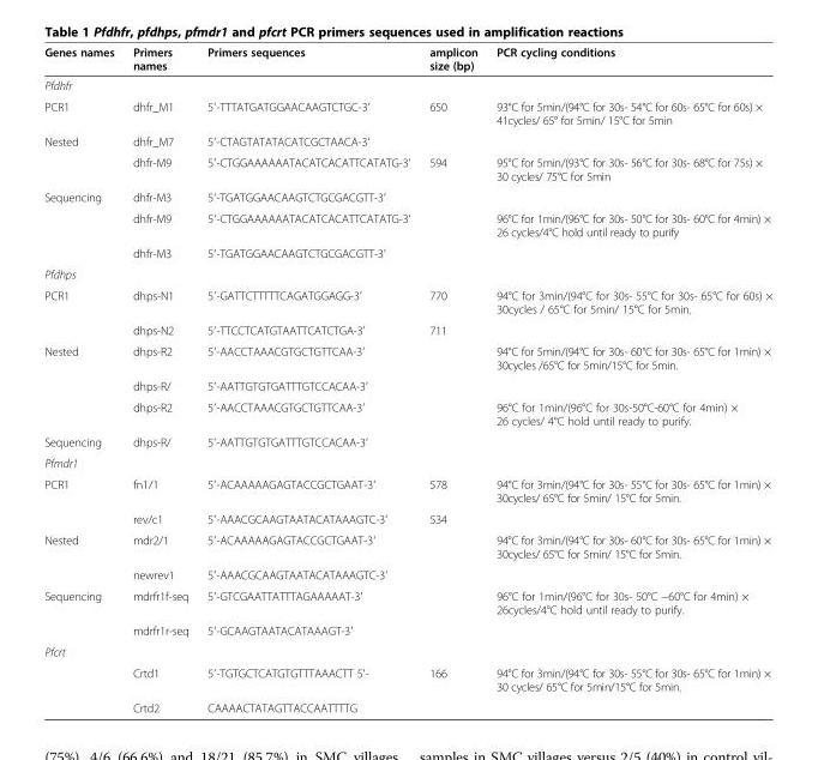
<table><thead><tr><td>Genes names</td><td>Primers names</td><td>Primers sequences</td><td>amplicon size (bp)</td><td>PCR cycling conditions</td></tr></thead><tbody><tr><td colspan="5">Pfdhfr</td></tr><tr><td>PCR1</td><td>dhfr_M1</td><td>5′-TTTATGATGGAACAAGTCTGC-3′</td><td>650</td><td>93°C for 5min/(94°C for 30s- 54°C for 60s- 65°C for 60s) × 41cycles/ 65° for 5min/ 15°C for 5min</td></tr><tr><td rowspan="2">Nested</td><td>dhfr_M7</td><td>5′-CTAGTATATACATCGCTAACA-3′</td><td></td><td></td></tr><tr><td>dhfr-M9</td><td>5′-CTGGAAAAAATACATCACATTCATATG-3′</td><td>594</td><td>95°C for 5min/(93°C for 30s- 56°C for 30s- 68°C for 75s) × 30 cycles/ 75°C for 5min</td></tr><tr><td rowspan="3">Sequencing</td><td>dhfr-M3</td><td>5′-TGATGGAACAAGTCTGCGACGTT-3′</td><td></td><td></td></tr><tr><td>dhfr-M9</td><td>5′-CTGGAAAAAATACATCACATTCATATG-3′</td><td></td><td>96°C for 1min/(96°C for 30s- 50°C for 30s- 60°C for 4min) × 26 cycles/4°C hold until ready to purify</td></tr><tr><td>dhfr-M3</td><td>5′-TGATGGAACAAGTCTGCGACGTT-3′</td><td></td><td></td></tr><tr><td colspan="5">Pfdhps</td></tr><tr><td rowspan="2">PCR1</td><td>dhps-N1</td><td>5′-GATTCTTTTTCAGATGGAGG-3′</td><td>770</td><td>94°C for 3min/(94°C for 30s- 55°C for 30s- 65°C for 60s) × 30cycles / 65°C for 5min/ 15°C for 5min.</td></tr><tr><td>dhps-N2</td><td>5′-TTCCTCATGTAATTCATCTGA-3′</td><td>711</td><td></td></tr><tr><td rowspan="3">Nested</td><td>dhps-R2</td><td>5′-AACCTAAACGTGCTGTTCAA-3′</td><td></td><td>94°C for 5min/(94°C for 30s- 60°C for 30s- 65°C for 1min) × 30cycles /65°C for 5min/15°C for 5min.</td></tr><tr><td>dhps-R/</td><td>5′-AATTGTGTGATTTGTCCACAA-3′</td><td></td><td></td></tr><tr><td>dhps-R2</td><td>5′-AACCTAAACGTGCTGTTCAA-3′</td><td></td><td>96°C for 1min/(96°C for 30s-50°C-60°C for 4min) × 26 cycles/ 4°C hold until ready to purify.</td></tr><tr><td>Sequencing</td><td>dhps-R/</td><td>5′-AATTGTGTGATTTGTCCACAA-3′</td><td></td><td></td></tr><tr><td colspan="5">Pfmdr1</td></tr><tr><td rowspan="2">PCR1</td><td>fn1/1</td><td>5′-ACAAAAAGAGTACCGCTGAAT-3′</td><td>578</td><td>94°C for 3min/(94°C for 30s- 55°C for 30s- 65°C for 1min) × 30cycles/ 65°C for 5min/ 15°C for 5min.</td></tr><tr><td>rev/c1</td><td>5′-AAACGCAAGTAATACATAAAGTC-3′</td><td>534</td><td></td></tr><tr><td rowspan="2">Nested</td><td>mdr2/1</td><td>5′-ACAAAAAGAGTACCGCTGAAT-3′</td><td></td><td>94°C for 3min/(94°C for 30s- 60°C for 30s- 65°C for 1min) × 30cycles/ 65°C for 5min/ 15°C for 5min.</td></tr><tr><td>newrev1</td><td>5′-AAACGCAAGTAATACATAAAGTC-3′</td><td></td><td></td></tr><tr><td rowspan="2">Sequencing</td><td>mdrfr1f-seq</td><td>5′-GTCGAATTATTTAGAAAAAT-3′</td><td></td><td>96°C for 1min/(96°C for 30s- 50°C −60°C for 4min) × 26cycles/4°C hold until ready to purify.</td></tr><tr><td>mdrfr1r-seq</td><td>5′-GCAAGTAATACATAAAGT-3′</td><td></td><td></td></tr><tr><td colspan="5">Pfcrt</td></tr><tr><td></td><td>Crtd1</td><td>5′-TGTGCTCATGTGTTTAAACTT 5′-</td><td>166</td><td>94°C for 3min/(94°C for 30s- 55°C for 30s- 65°C for 1min) × 30 cycles/ 65°C for 5min/15°C for 5min.</td></tr><tr><td></td><td>Crtd2</td><td>CAAAACTATAGTTACCAATTTTG</td><td></td><td></td></tr></tbody></table>